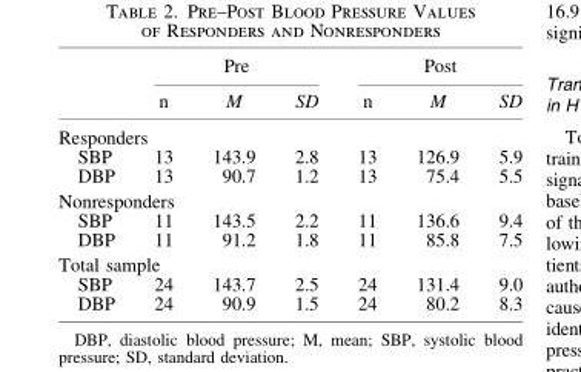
<table><thead><tr><td rowspan="2"></td><td colspan="3">Pre</td><td colspan="3">Post</td></tr><tr><td>n</td><td>M</td><td>SD</td><td>n</td><td>M</td><td>SD</td></tr></thead><tbody><tr><td colspan="7">Responders</td></tr><tr><td>SBP</td><td>13</td><td>143.9</td><td>2.8</td><td>13</td><td>126.9</td><td>5.9</td></tr><tr><td>DBP</td><td>13</td><td>90.7</td><td>1.2</td><td>13</td><td>75.4</td><td>5.5</td></tr><tr><td colspan="7">Nonresponders</td></tr><tr><td>SBP</td><td>11</td><td>143.5</td><td>2.2</td><td>11</td><td>136.6</td><td>9.4</td></tr><tr><td>DBP</td><td>11</td><td>91.2</td><td>1.8</td><td>11</td><td>85.8</td><td>7.5</td></tr><tr><td colspan="7">Total sample</td></tr><tr><td>SBP</td><td>24</td><td>143.7</td><td>2.5</td><td>24</td><td>131.4</td><td>9.0</td></tr><tr><td>DBP</td><td>24</td><td>90.9</td><td>1.5</td><td>24</td><td>80.2</td><td>8.3</td></tr></tbody></table>